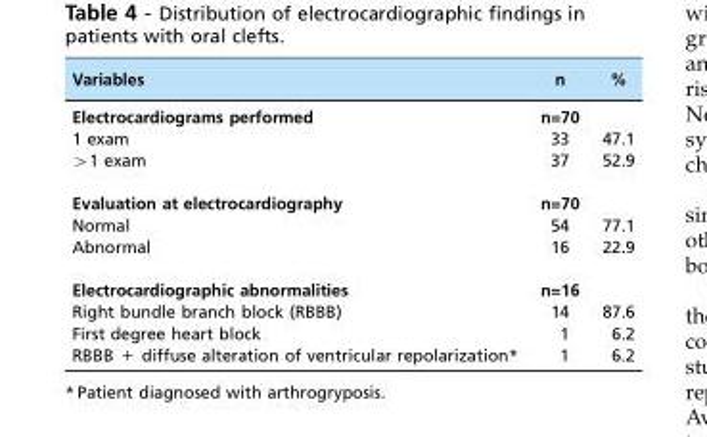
<table><thead><tr><td>Variables</td><td>n</td><td>%</td></tr></thead><tbody><tr><td>Electrocardiograms performed</td><td>n=70</td><td></td></tr><tr><td>1 exam</td><td>33</td><td>47.1</td></tr><tr><td>&gt;1 exam</td><td>37</td><td>52.9</td></tr><tr><td>Evaluation at electrocardiography</td><td>n=70</td><td></td></tr><tr><td>Normal</td><td>54</td><td>77.1</td></tr><tr><td>Abnormal</td><td>16</td><td>22.9</td></tr><tr><td>Electrocardiographic abnormalities</td><td>n=16</td><td></td></tr><tr><td>Right bundle branch block (RBBB)</td><td>14</td><td>87.6</td></tr><tr><td>First degree heart block</td><td>1</td><td>6.2</td></tr><tr><td>RBBB + diffuse alteration of ventricular repolarization*</td><td>1</td><td>6.2</td></tr></tbody></table>